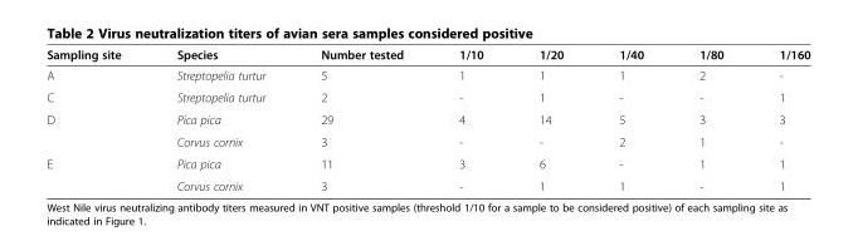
<table><thead><tr><td>Sampling site</td><td>Species</td><td>Number tested</td><td>1/10</td><td>1/20</td><td>1/40</td><td>1/80</td><td>1/160</td></tr></thead><tbody><tr><td>A</td><td>Streptopelia turtur</td><td>5</td><td>1</td><td>1</td><td>1</td><td>2</td><td>-</td></tr><tr><td>C</td><td>Streptopelia turtur</td><td>2</td><td>-</td><td>1</td><td>-</td><td>-</td><td>1</td></tr><tr><td rowspan="2">D</td><td>Pica pica</td><td>29</td><td>4</td><td>14</td><td>5</td><td>3</td><td>3</td></tr><tr><td>Corvus cornix</td><td>3</td><td>-</td><td>-</td><td>2</td><td>1</td><td>-</td></tr><tr><td rowspan="2">E</td><td>Pica pica</td><td>11</td><td>3</td><td>6</td><td>-</td><td>1</td><td>1</td></tr><tr><td>Corvus cornix</td><td>3</td><td>-</td><td>1</td><td>1</td><td>-</td><td>1</td></tr></tbody></table>